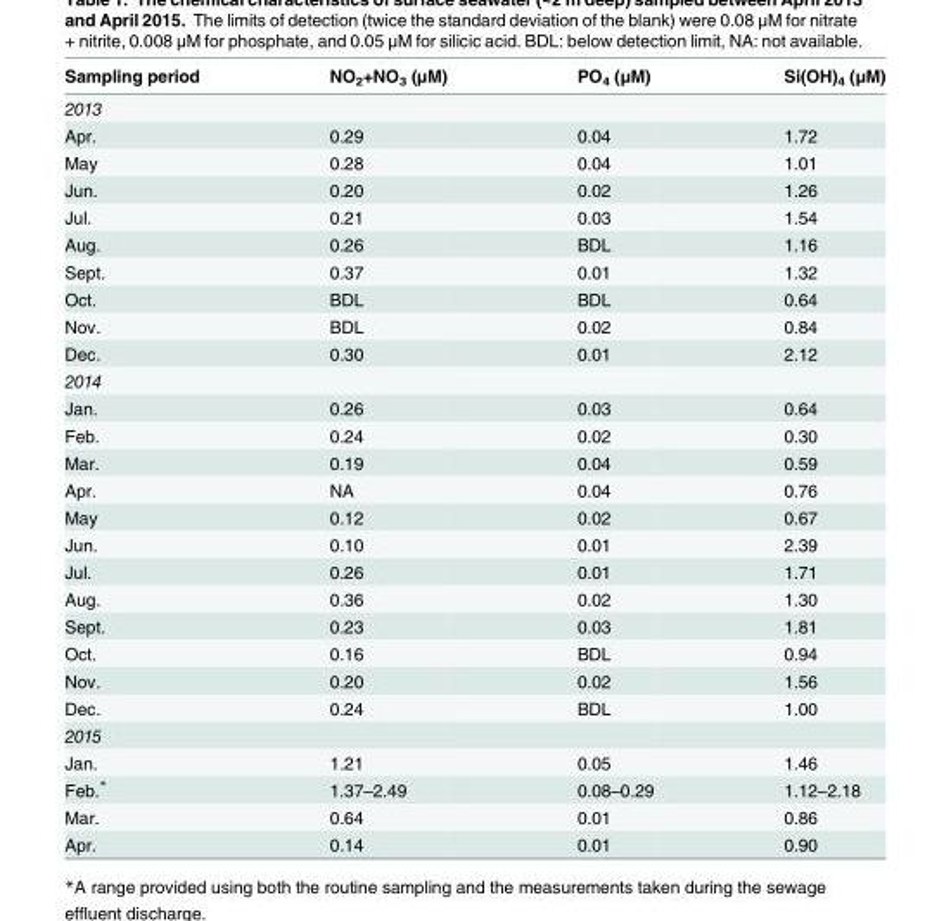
<table><thead><tr><td>Sampling period</td><td>NO<sub>2</sub>+NO<sub>3</sub> (μM)</td><td>PO<sub>4</sub> (μM)</td><td>Si(OH)<sub>4</sub> (μM)</td></tr></thead><tbody><tr><td colspan="4">2013</td></tr><tr><td>Apr.</td><td>0.29</td><td>0.04</td><td>1.72</td></tr><tr><td>May</td><td>0.28</td><td>0.04</td><td>1.01</td></tr><tr><td>Jun.</td><td>0.20</td><td>0.02</td><td>1.26</td></tr><tr><td>Jul.</td><td>0.21</td><td>0.03</td><td>1.54</td></tr><tr><td>Aug.</td><td>0.26</td><td>BDL</td><td>1.16</td></tr><tr><td>Sept.</td><td>0.37</td><td>0.01</td><td>1.32</td></tr><tr><td>Oct.</td><td>BDL</td><td>BDL</td><td>0.64</td></tr><tr><td>Nov.</td><td>BDL</td><td>0.02</td><td>0.84</td></tr><tr><td>Dec.</td><td>0.30</td><td>0.01</td><td>2.12</td></tr><tr><td colspan="4">2014</td></tr><tr><td>Jan.</td><td>0.26</td><td>0.03</td><td>0.64</td></tr><tr><td>Feb.</td><td>0.24</td><td>0.02</td><td>0.30</td></tr><tr><td>Mar.</td><td>0.19</td><td>0.04</td><td>0.59</td></tr><tr><td>Apr.</td><td>NA</td><td>0.04</td><td>0.76</td></tr><tr><td>May</td><td>0.12</td><td>0.02</td><td>0.67</td></tr><tr><td>Jun.</td><td>0.10</td><td>0.01</td><td>2.39</td></tr><tr><td>Jul.</td><td>0.26</td><td>0.01</td><td>1.71</td></tr><tr><td>Aug.</td><td>0.36</td><td>0.02</td><td>1.30</td></tr><tr><td>Sept.</td><td>0.23</td><td>0.03</td><td>1.81</td></tr><tr><td>Oct.</td><td>0.16</td><td>BDL</td><td>0.94</td></tr><tr><td>Nov.</td><td>0.20</td><td>0.02</td><td>1.56</td></tr><tr><td>Dec.</td><td>0.24</td><td>BDL</td><td>1.00</td></tr><tr><td colspan="4">2015</td></tr><tr><td>Jan.</td><td>1.21</td><td>0.05</td><td>1.46</td></tr><tr><td>Feb.*</td><td>1.37–2.49</td><td>0.08–0.29</td><td>1.12–2.18</td></tr><tr><td>Mar.</td><td>0.64</td><td>0.01</td><td>0.86</td></tr><tr><td>Apr.</td><td>0.14</td><td>0.01</td><td>0.90</td></tr></tbody></table>